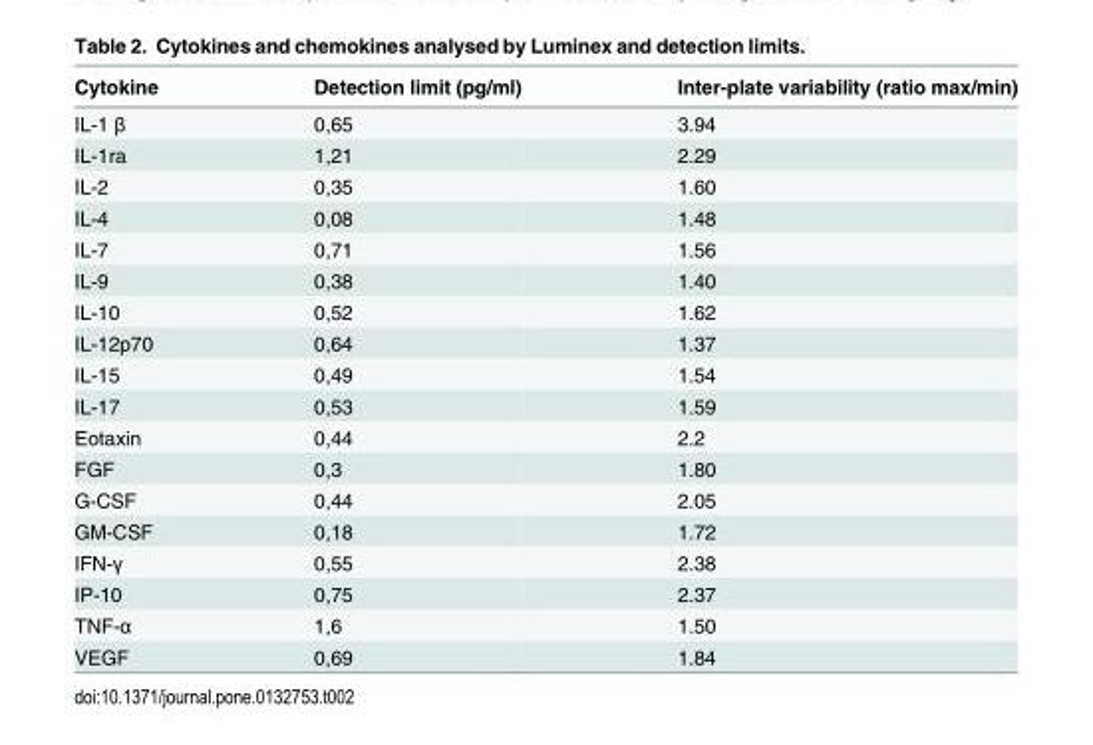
<table><thead><tr><td>Cytokine</td><td>Detection limit (pg/ml)</td><td>Inter-plate variability (ratio max/min)</td></tr></thead><tbody><tr><td>IL-1 β</td><td>0,65</td><td>3.94</td></tr><tr><td>IL-1ra</td><td>1,21</td><td>2.29</td></tr><tr><td>IL-2</td><td>0,35</td><td>1.60</td></tr><tr><td>IL-4</td><td>0,08</td><td>1.48</td></tr><tr><td>IL-7</td><td>0,71</td><td>1.56</td></tr><tr><td>IL-9</td><td>0,38</td><td>1.40</td></tr><tr><td>IL-10</td><td>0,52</td><td>1.62</td></tr><tr><td>IL-12p70</td><td>0,64</td><td>1.37</td></tr><tr><td>IL-15</td><td>0,49</td><td>1.54</td></tr><tr><td>IL-17</td><td>0,53</td><td>1.59</td></tr><tr><td>Eotaxin</td><td>0,44</td><td>2.2</td></tr><tr><td>FGF</td><td>0,3</td><td>1.80</td></tr><tr><td>G-CSF</td><td>0,44</td><td>2.05</td></tr><tr><td>GM-CSF</td><td>0,18</td><td>1.72</td></tr><tr><td>IFN-γ</td><td>0,55</td><td>2.38</td></tr><tr><td>IP-10</td><td>0,75</td><td>2.37</td></tr><tr><td>TNF-α</td><td>1,6</td><td>1.50</td></tr><tr><td>VEGF</td><td>0,69</td><td>1.84</td></tr></tbody></table>